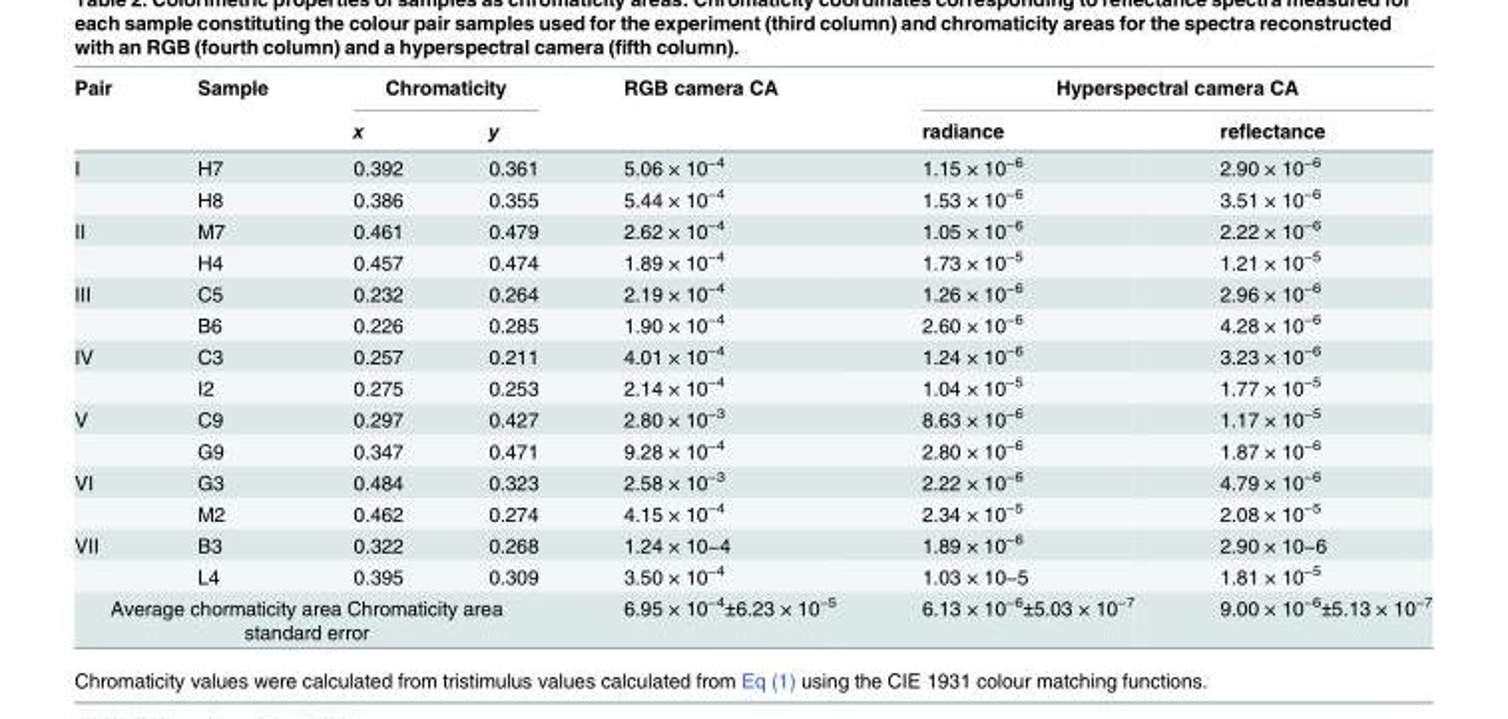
<table><thead><tr><td rowspan="2">Pair</td><td rowspan="2">Sample</td><td colspan="2">Chromaticity</td><td rowspan="2">RGB camera CA</td><td colspan="2">Hyperspectral camera CA</td></tr><tr><td>x</td><td>y</td><td>radiance</td><td>reflectance</td></tr></thead><tbody><tr><td rowspan="2">I</td><td>H7</td><td>0.392</td><td>0.361</td><td>5.06 × 10<sup>−4</sup></td><td>1.15 × 10<sup>−6</sup></td><td>2.90 × 10<sup>−6</sup></td></tr><tr><td>H8</td><td>0.386</td><td>0.355</td><td>5.44 × 10<sup>−4</sup></td><td>1.53 × 10<sup>−6</sup></td><td>3.51 × 10<sup>−6</sup></td></tr><tr><td rowspan="2">II</td><td>M7</td><td>0.461</td><td>0.479</td><td>2.62 × 10<sup>−4</sup></td><td>1.05 × 10<sup>−6</sup></td><td>2.22 × 10<sup>−6</sup></td></tr><tr><td>H4</td><td>0.457</td><td>0.474</td><td>1.89 × 10<sup>−4</sup></td><td>1.73 × 10<sup>−5</sup></td><td>1.21 × 10<sup>−5</sup></td></tr><tr><td rowspan="2">III</td><td>C5</td><td>0.232</td><td>0.264</td><td>2.19 × 10<sup>−4</sup></td><td>1.26 × 10<sup>−6</sup></td><td>2.96 × 10<sup>−6</sup></td></tr><tr><td>B6</td><td>0.226</td><td>0.285</td><td>1.90 × 10<sup>−4</sup></td><td>2.60 × 10<sup>−6</sup></td><td>4.28 × 10<sup>−6</sup></td></tr><tr><td rowspan="2">IV</td><td>C3</td><td>0.257</td><td>0.211</td><td>4.01 × 10<sup>−4</sup></td><td>1.24 × 10<sup>−6</sup></td><td>3.23 × 10<sup>−6</sup></td></tr><tr><td>I2</td><td>0.275</td><td>0.253</td><td>2.14 × 10<sup>−4</sup></td><td>1.04 × 10<sup>−5</sup></td><td>1.77 × 10<sup>−5</sup></td></tr><tr><td rowspan="2">V</td><td>C9</td><td>0.297</td><td>0.427</td><td>2.80 × 10<sup>−3</sup></td><td>8.63 × 10<sup>−6</sup></td><td>1.17 × 10<sup>−5</sup></td></tr><tr><td>G9</td><td>0.347</td><td>0.471</td><td>9.28 × 10<sup>−4</sup></td><td>2.80 × 10<sup>−6</sup></td><td>1.87 × 10<sup>−6</sup></td></tr><tr><td rowspan="2">VI</td><td>G3</td><td>0.484</td><td>0.323</td><td>2.58 × 10<sup>−3</sup></td><td>2.22 × 10<sup>−6</sup></td><td>4.79 × 10<sup>−6</sup></td></tr><tr><td>M2</td><td>0.462</td><td>0.274</td><td>4.15 × 10<sup>−4</sup></td><td>2.34 × 10<sup>−5</sup></td><td>2.08 × 10<sup>−5</sup></td></tr><tr><td rowspan="2">VII</td><td>B3</td><td>0.322</td><td>0.268</td><td>1.24 × 10−4</td><td>1.89 × 10<sup>−6</sup></td><td>2.90 × 10−6</td></tr><tr><td>L4</td><td>0.395</td><td>0.309</td><td>3.50 × 10<sup>−4</sup></td><td>1.03 × 10−5</td><td>1.81 × 10<sup>−5</sup></td></tr><tr><td colspan="4">Average chormaticity area Chromaticity area standard error</td><td>6.95 × 10<sup>−4</sup>±6.23 × 10<sup>−5</sup></td><td>6.13 × 10<sup>−6</sup>±5.03 × 10<sup>−7</sup></td><td>9.00 × 10<sup>−6</sup>±5.13 × 10<sup>−7</sup></td></tr></tbody></table>